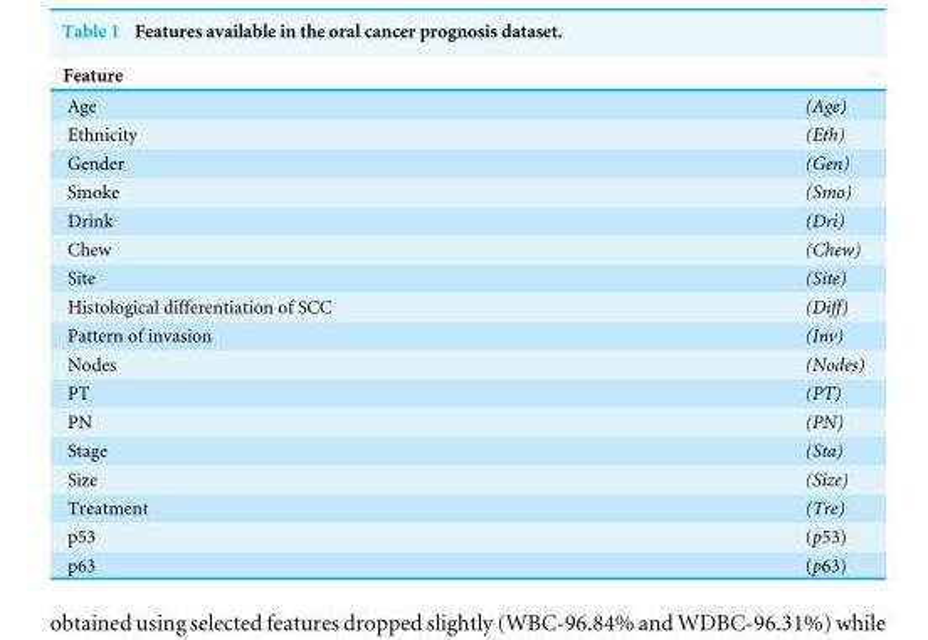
<table><thead><tr><td colspan="2">Feature</td></tr><tr><td>Age</td><td>(Age)</td></tr></thead><tbody><tr><td>Ethnicity</td><td>(Eth)</td></tr><tr><td>Gender</td><td>(Gen)</td></tr><tr><td>Smoke</td><td>(Smo)</td></tr><tr><td>Drink</td><td>(Dri)</td></tr><tr><td>Chew</td><td>(Chew)</td></tr><tr><td>Site</td><td>(Site)</td></tr><tr><td>Histological differentiation of SCC</td><td>(Diff)</td></tr><tr><td>Pattern of invasion</td><td>(Inv)</td></tr><tr><td>Nodes</td><td>(Nodes)</td></tr><tr><td>PT</td><td>(PT)</td></tr><tr><td>PN</td><td>(PN)</td></tr><tr><td>Stage</td><td>(Sta)</td></tr><tr><td>Size</td><td>(Size)</td></tr><tr><td>Treatment</td><td>(Tre)</td></tr><tr><td>p53</td><td>(p53)</td></tr><tr><td>p63</td><td>(p63)</td></tr></tbody></table>